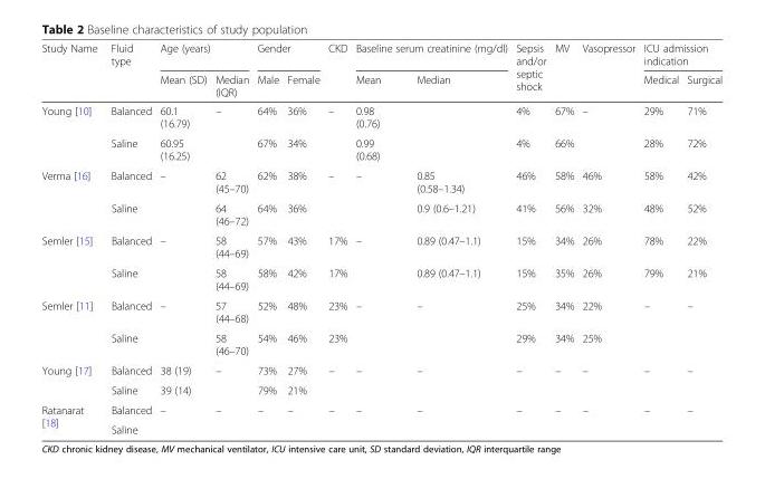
<table><thead><tr><td rowspan="2">Study Name</td><td rowspan="2">Fluid type</td><td colspan="2">Age (years)</td><td colspan="2">Gender</td><td rowspan="2">CKD</td><td colspan="2">Baseline serum creatinine (mg/dl)</td><td rowspan="2">Sepsis and/or septic shock</td><td rowspan="2">MV</td><td rowspan="2">Vasopressor</td><td colspan="2">ICU admission indication</td></tr><tr><td>Mean (SD)</td><td>Median (IQR)</td><td>Male</td><td>Female</td><td>Mean</td><td>Median</td><td>Medical</td><td>Surgical</td></tr></thead><tbody><tr><td rowspan="2">Young [10]</td><td>Balanced</td><td>60.1 (16.79)</td><td>–</td><td>64%</td><td>36%</td><td>–</td><td>0.98 (0.76)</td><td></td><td>4%</td><td>67%</td><td>–</td><td>29%</td><td>71%</td></tr><tr><td>Saline</td><td>60.95 (16.25)</td><td></td><td>67%</td><td>34%</td><td></td><td>0.99 (0.68)</td><td></td><td>4%</td><td>66%</td><td></td><td>28%</td><td>72%</td></tr><tr><td rowspan="2">Verma [16]</td><td>Balanced</td><td>–</td><td>62 (45–70)</td><td>62%</td><td>38%</td><td>–</td><td>–</td><td>0.85 (0.58–1.34)</td><td>46%</td><td>58%</td><td>46%</td><td>58%</td><td>42%</td></tr><tr><td>Saline</td><td></td><td>64 (46–72)</td><td>64%</td><td>36%</td><td></td><td></td><td>0.9 (0.6–1.21)</td><td>41%</td><td>56%</td><td>32%</td><td>48%</td><td>52%</td></tr><tr><td rowspan="2">Semler [15]</td><td>Balanced</td><td>–</td><td>58 (44–69)</td><td>57%</td><td>43%</td><td>17%</td><td>–</td><td>0.89 (0.47–1.1)</td><td>15%</td><td>34%</td><td>26%</td><td>78%</td><td>22%</td></tr><tr><td>Saline</td><td></td><td>58 (44–69)</td><td>58%</td><td>42%</td><td>17%</td><td></td><td>0.89 (0.47–1.1)</td><td>15%</td><td>35%</td><td>26%</td><td>79%</td><td>21%</td></tr><tr><td rowspan="2">Semler [11]</td><td>Balanced</td><td>–</td><td>57 (44–68)</td><td>52%</td><td>48%</td><td>23%</td><td>–</td><td>–</td><td>25%</td><td>34%</td><td>22%</td><td>–</td><td>–</td></tr><tr><td>Saline</td><td></td><td>58 (46–70)</td><td>54%</td><td>46%</td><td>23%</td><td></td><td></td><td>29%</td><td>34%</td><td>25%</td><td></td><td></td></tr><tr><td rowspan="2">Young [17]</td><td>Balanced</td><td>38 (19)</td><td>–</td><td>73%</td><td>27%</td><td>–</td><td>–</td><td>–</td><td>–</td><td>–</td><td>–</td><td>–</td><td>–</td></tr><tr><td>Saline</td><td>39 (14)</td><td></td><td>79%</td><td>21%</td><td></td><td></td><td></td><td></td><td></td><td></td><td></td><td></td></tr><tr><td rowspan="2">Ratanarat [18]</td><td>Balanced</td><td>–</td><td>–</td><td>–</td><td>–</td><td>–</td><td>–</td><td>–</td><td>–</td><td>–</td><td>–</td><td>–</td><td>–</td></tr><tr><td>Saline</td><td></td><td></td><td></td><td></td><td></td><td></td><td></td><td></td><td></td><td></td><td></td><td></td></tr></tbody></table>